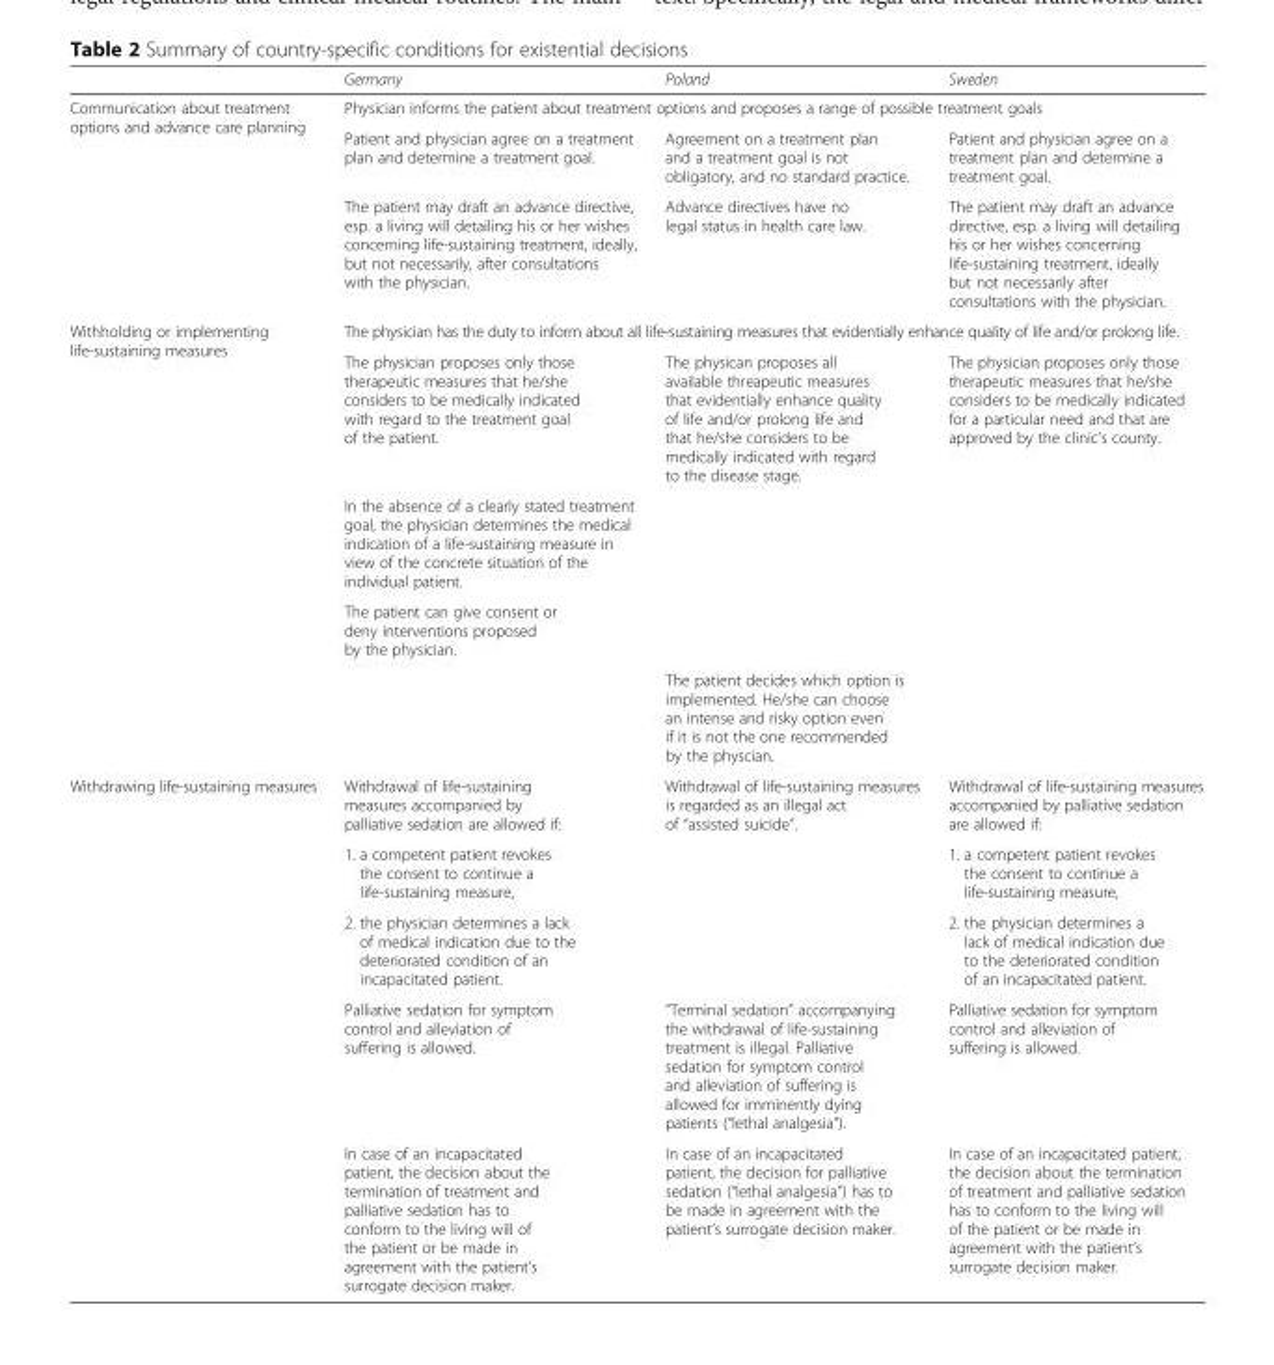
<table><thead><tr><td></td><td>Germany</td><td>Poland</td><td>Sweden</td></tr></thead><tbody><tr><td rowspan="3">Communication about treatment options and advance care planning</td><td colspan="3">Physician informs the patient about treatment options and proposes a range of possible treatment goals</td></tr><tr><td>Patient and physician agree on a treatment plan and determine a treatment goal.</td><td>Agreement on a treatment plan and a treatment goal is not obligatory, and no standard practice.</td><td>Patient and physician agree on a treatment plan and determine a treatment goal.</td></tr><tr><td>The patient may draft an advance directive, esp. a living will detailing his or her wishes concerning life-sustaining treatment, ideally, but not necessarily, after consultations with the physician.</td><td>Advance directives have no legal status in health care law.</td><td>The patient may draft an advance directive, esp. a living will detailing his or her wishes concerning life-sustaining treatment, ideally but not necessarily after consultations with the physician.</td></tr><tr><td rowspan="5">Withholding or implementing life-sustaining measures</td><td colspan="3">The physician has the duty to inform about all life-sustaining measures that evidentially enhance quality of life and/or prolong life.</td></tr><tr><td>The physician proposes only those therapeutic measures that he/she considers to be medically indicated with regard to the treatment goal of the patient.</td><td>The physican proposes all available threapeutic measures that evidentially enhance quality of life and/or prolong life and that he/she considers to be medically indicated with regard to the disease stage.</td><td>The physician proposes only those therapeutic measures that he/she considers to be medically indicated for a particular need and that are approved by the clinic’s county.</td></tr><tr><td>In the absence of a clearly stated treatment goal, the physician determines the medical indication of a life-sustaining measure in view of the concrete situation of the individual patient.</td><td></td><td></td></tr><tr><td colspan="3">The patient can give consent or deny interventions proposed by the physician.</td></tr><tr><td></td><td>The patient decides which option is implemented. He/she can choose an intense and risky option even if it is not the one recommended by the physcian.</td><td></td></tr><tr><td rowspan="5">Withdrawing life-sustaining measures</td><td>Withdrawal of life-sustaining measures accompanied by palliative sedation are allowed if:</td><td>Withdrawal of life-sustaining measures is regarded as an illegal act of “assisted suicide”.</td><td>Withdrawal of life-sustaining measures accompanied by palliative sedation are allowed if:</td></tr><tr><td>1. a competent patient revokes the consent to continue a life-sustaining measure,</td><td></td><td>1. a competent patient revokes the consent to continue a life-sustaining measure,</td></tr><tr><td>2. the physician determines a lack of medical indication due to the deteriorated condition of an incapacitated patient.</td><td></td><td>2. the physician determines a lack of medical indication due to the deteriorated condition of an incapacitated patient.</td></tr><tr><td>Palliative sedation for symptom control and alleviation of suffering is allowed.</td><td>“Terminal sedation” accompanying the withdrawal of life-sustaining treatment is illegal. Palliative sedation for symptom control and alleviation of suffering is allowed for imminently dying patients (“lethal analgesia”).</td><td>Palliative sedation for symptom control and alleviation of suffering is allowed.</td></tr><tr><td>In case of an incapacitated patient, the decision about the termination of treatment and palliative sedation has to conform to the living will of the patient or be made in agreement with the patient’s surrogate decision maker.</td><td>In case of an incapacitated patient, the decision for palliative sedation (“lethal analgesia”) has to be made in agreement with the patient’s surrogate decision maker.</td><td>In case of an incapacitated patient, the decision about the termination of treatment and palliative sedation has to conform to the living will of the patient or be made in agreement with the patient’s surrogate decision maker.</td></tr></tbody></table>